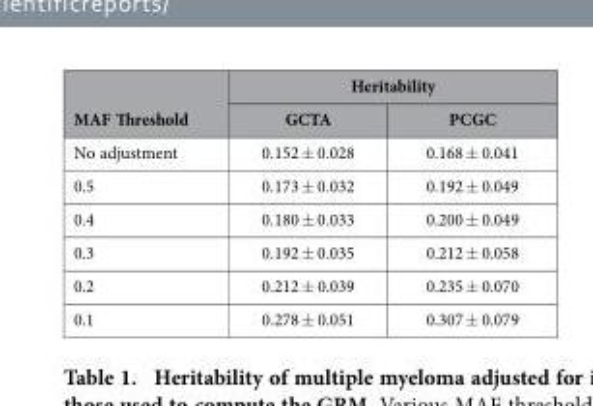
<table><thead><tr><td rowspan="2">MAF Threshold</td><td colspan="2">Heritability</td></tr><tr><td>GCTA</td><td>PCGC</td></tr></thead><tbody><tr><td>No adjustment</td><td>0.152 ± 0.028</td><td>0.168 ± 0.041</td></tr><tr><td>0.5</td><td>0.173 ± 0.032</td><td>0.192 ± 0.049</td></tr><tr><td>0.4</td><td>0.180 ± 0.033</td><td>0.200 ± 0.049</td></tr><tr><td>0.3</td><td>0.192 ± 0.035</td><td>0.212 ± 0.058</td></tr><tr><td>0.2</td><td>0.212 ± 0.039</td><td>0.235 ± 0.070</td></tr><tr><td>0.1</td><td>0.278 ± 0.051</td><td>0.307 ± 0.079</td></tr></tbody></table>